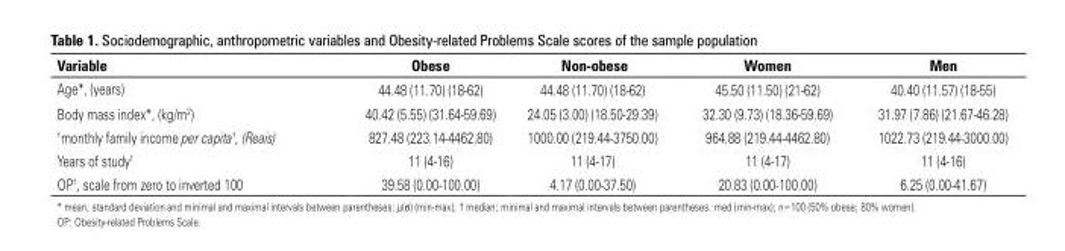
<table><thead><tr><td>Variable</td><td>Obese</td><td>Non-obese</td><td>Women</td><td>Men</td></tr></thead><tbody><tr><td>Age*, (years)</td><td>44.48 (11.70) (18-62)</td><td>44.48 (11.70) (18-62)</td><td>45.50 (11.50) (21-62)</td><td>40.40 (11.57) (18-55)</td></tr><tr><td>Body mass index*, (kg/m<sup>2</sup>)</td><td>40.42 (5.55) (31.64-59.69)</td><td>24.05 (3.00) (18.50-29.39)</td><td>32.30 (9.73) (18.36-59.69)</td><td>31.97 (7.86) (21.67-46.28)</td></tr><tr><td><sup>†</sup>monthly family income per capita<sup>†</sup>, (Reais)</td><td>827.48 (223.14-4462.80)</td><td>1000.00 (219.44-3750.00)</td><td>964.88 (219.44-4462.80)</td><td>1022.73 (219.44-3000.00)</td></tr><tr><td>Years of study<sup>†</sup></td><td>11 (4-16)</td><td>11 (4-17)</td><td>11 (4-17)</td><td>11 (4-16)</td></tr><tr><td>OP<sup>†</sup>, scale from zero to inverted 100</td><td>39.58 (0.00-100.00)</td><td>4.17 (0.00-37.50)</td><td>20.83 (0.00-100.00)</td><td>6.25 (0.00-41.67)</td></tr></tbody></table>